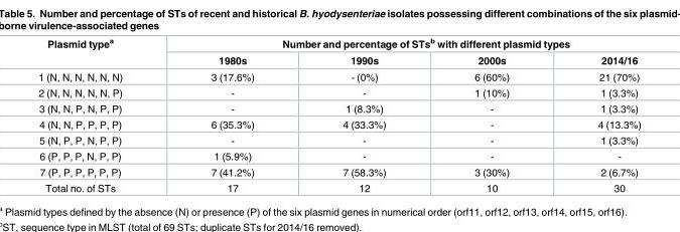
<table><thead><tr><td rowspan="2">Plasmid type<sup>a</sup></td><td colspan="4">Number and percentage of STs<sup>b</sup> with different plasmid types</td></tr><tr><td>1980s</td><td>1990s</td><td>2000s</td><td>2014/16</td></tr></thead><tbody><tr><td>1 (N, N, N, N, N, N)</td><td>3 (17.6%)</td><td>- (0%)</td><td>6 (60%)</td><td>21 (70%)</td></tr><tr><td>2 (N, N, N, N, N, P)</td><td>-</td><td>-</td><td>1 (10%)</td><td>1 (3.3%)</td></tr><tr><td>3 (N, N, P, N, P, P)</td><td>-</td><td>1 (8.3%)</td><td>-</td><td>1 (3.3%)</td></tr><tr><td>4 (N, N, P, P, P, P)</td><td>6 (35.3%)</td><td>4 (33.3%)</td><td>-</td><td>4 (13.3%)</td></tr><tr><td>5 (N, P, P, N, P, P)</td><td>-</td><td>-</td><td>-</td><td>1 (3.3%)</td></tr><tr><td>6 (P, P, P, N, P, P)</td><td>1 (5.9%)</td><td>-</td><td>-</td><td>-</td></tr><tr><td>7 (P, P, P, P, P, P)</td><td>7 (41.2%)</td><td>7 (58.3%)</td><td>3 (30%)</td><td>2 (6.7%)</td></tr><tr><td>Total no. of STs</td><td>17</td><td>12</td><td>10</td><td>30</td></tr></tbody></table>